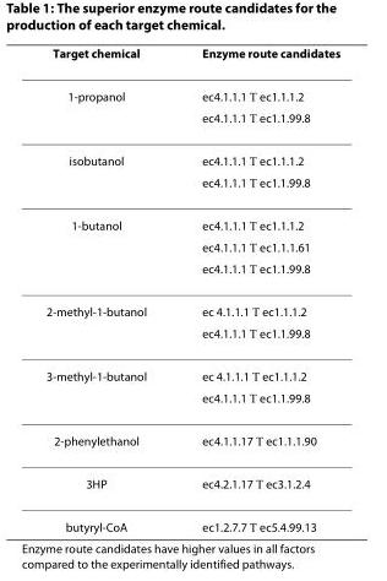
<table><thead><tr><td>Target chemical</td><td>Enzyme route candidates</td></tr></thead><tbody><tr><td rowspan="2">1-propanol</td><td>ec4.1.1.1 → ec1.1.1.2</td></tr><tr><td>ec4.1.1.1 → ec1.1.99.8</td></tr><tr><td rowspan="2">isobutanol</td><td>ec4.1.1.1 → ec1.1.1.2</td></tr><tr><td>ec4.1.1.1 → ec1.1.99.8</td></tr><tr><td rowspan="3">1-butanol</td><td>ec4.1.1.1 → ec1.1.1.2</td></tr><tr><td>ec4.1.1.1 → ec1.1.1.61</td></tr><tr><td>ec4.1.1.1 → ec1.1.99.8</td></tr><tr><td rowspan="2">2-methyl-1-butanol</td><td>ec 4.1.1.1 → ec1.1.1.2</td></tr><tr><td>ec4.1.1.1 → ec1.1.99.8</td></tr><tr><td rowspan="2">3-methyl-1-butanol</td><td>ec 4.1.1.1 → ec1.1.1.2</td></tr><tr><td>ec4.1.1.1 → ec1.1.99.8</td></tr><tr><td>2-phenylethanol</td><td>ec4.1.1.17 → ec1.1.1.90</td></tr><tr><td>3HP</td><td>ec4.2.1.17 → ec3.1.2.4</td></tr><tr><td>butyryl-CoA</td><td>ec1.2.7.7 → ec5.4.99.13</td></tr></tbody></table>